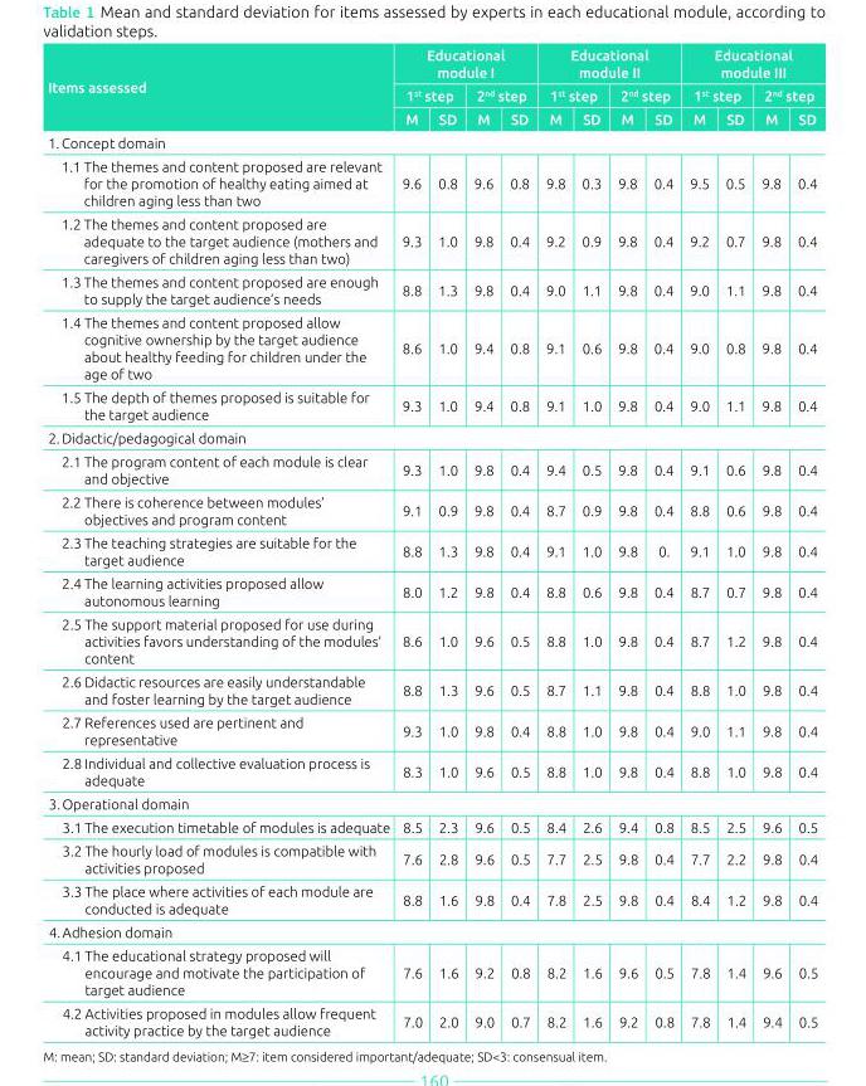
<table><thead><tr><td rowspan="3">Items assessed</td><td colspan="4">Educational module I</td><td colspan="4">Educational module II</td><td colspan="4">Educational module III</td></tr><tr><td colspan="2">1<sup>st</sup> step</td><td colspan="2">2<sup>nd</sup> step</td><td colspan="2">1<sup>st</sup> step</td><td colspan="2">2<sup>nd</sup> step</td><td colspan="2">1<sup>st</sup> step</td><td colspan="2">2<sup>nd</sup> step</td></tr><tr><td>M</td><td>SD</td><td>M</td><td>SD</td><td>M</td><td>SD</td><td>M</td><td>SD</td><td>M</td><td>SD</td><td>M</td><td>SD</td></tr></thead><tbody><tr><td colspan="13">1. Concept domain</td></tr><tr><td>1.1 The themes and content proposed are relevant for the promotion of healthy eating aimed at children aging less than two</td><td>9.6</td><td>0.8</td><td>9.6</td><td>0.8</td><td>9.8</td><td>0.3</td><td>9.8</td><td>0.4</td><td>9.5</td><td>0.5</td><td>9.8</td><td>0.4</td></tr><tr><td>1.2 The themes and content proposed are adequate to the target audience (mothers and caregivers of children aging less than two)</td><td>9.3</td><td>1.0</td><td>9.8</td><td>0.4</td><td>9.2</td><td>0.9</td><td>9.8</td><td>0.4</td><td>9.2</td><td>0.7</td><td>9.8</td><td>0.4</td></tr><tr><td>1.3 The themes and content proposed are enough to supply the target audience’s needs</td><td>8.8</td><td>1.3</td><td>9.8</td><td>0.4</td><td>9.0</td><td>1.1</td><td>9.8</td><td>0.4</td><td>9.0</td><td>1.1</td><td>9.8</td><td>0.4</td></tr><tr><td>1.4 The themes and content proposed allow cognitive ownership by the target audience about healthy feeding for children under the age of two</td><td>8.6</td><td>1.0</td><td>9.4</td><td>0.8</td><td>9.1</td><td>0.6</td><td>9.8</td><td>0.4</td><td>9.0</td><td>0.8</td><td>9.8</td><td>0.4</td></tr><tr><td>1.5 The depth of themes proposed is suitable for the target audience</td><td>9.3</td><td>1.0</td><td>9.4</td><td>0.8</td><td>9.1</td><td>1.0</td><td>9.8</td><td>0.4</td><td>9.0</td><td>1.1</td><td>9.8</td><td>0.4</td></tr><tr><td colspan="13">2. Didactic/pedagogical domain</td></tr><tr><td>2.1 The program content of each module is clear and objective</td><td>9.3</td><td>1.0</td><td>9.8</td><td>0.4</td><td>9.4</td><td>0.5</td><td>9.8</td><td>0.4</td><td>9.1</td><td>0.6</td><td>9.8</td><td>0.4</td></tr><tr><td>2.2 There is coherence between modules’ objectives and program content</td><td>9.1</td><td>0.9</td><td>9.8</td><td>0.4</td><td>8.7</td><td>0.9</td><td>9.8</td><td>0.4</td><td>8.8</td><td>0.6</td><td>9.8</td><td>0.4</td></tr><tr><td>2.3 The teaching strategies are suitable for the target audience</td><td>8.8</td><td>1.3</td><td>9.8</td><td>0.4</td><td>9.1</td><td>1.0</td><td>9.8</td><td>0.</td><td>9.1</td><td>1.0</td><td>9.8</td><td>0.4</td></tr><tr><td>2.4 The learning activities proposed allow autonomous learning</td><td>8.0</td><td>1.2</td><td>9.8</td><td>0.4</td><td>8.8</td><td>0.6</td><td>9.8</td><td>0.4</td><td>8.7</td><td>0.7</td><td>9.8</td><td>0.4</td></tr><tr><td>2.5 The support material proposed for use during activities favors understanding of the modules’ content</td><td>8.6</td><td>1.0</td><td>9.6</td><td>0.5</td><td>8.8</td><td>1.0</td><td>9.8</td><td>0.4</td><td>8.7</td><td>1.2</td><td>9.8</td><td>0.4</td></tr><tr><td>2.6 Didactic resources are easily understandable and foster learning by the target audience</td><td>8.8</td><td>1.3</td><td>9.6</td><td>0.5</td><td>8.7</td><td>1.1</td><td>9.8</td><td>0.4</td><td>8.8</td><td>1.0</td><td>9.8</td><td>0.4</td></tr><tr><td>2.7 References used are pertinent and representative</td><td>9.3</td><td>1.0</td><td>9.8</td><td>0.4</td><td>8.8</td><td>1.0</td><td>9.8</td><td>0.4</td><td>9.0</td><td>1.1</td><td>9.8</td><td>0.4</td></tr><tr><td>2.8 Individual and collective evaluation process is adequate</td><td>8.3</td><td>1.0</td><td>9.6</td><td>0.5</td><td>8.8</td><td>1.0</td><td>9.8</td><td>0.4</td><td>8.8</td><td>1.0</td><td>9.8</td><td>0.4</td></tr><tr><td colspan="13">3. Operational domain</td></tr><tr><td>3.1 The execution timetable of modules is adequate</td><td>8.5</td><td>2.3</td><td>9.6</td><td>0.5</td><td>8.4</td><td>2.6</td><td>9.4</td><td>0.8</td><td>8.5</td><td>2.5</td><td>9.6</td><td>0.5</td></tr><tr><td>3.2 The hourly load of modules is compatible with activities proposed</td><td>7.6</td><td>2.8</td><td>9.6</td><td>0.5</td><td>7.7</td><td>2.5</td><td>9.8</td><td>0.4</td><td>7.7</td><td>2.2</td><td>9.8</td><td>0.4</td></tr><tr><td>3.3 The place where activities of each module are conducted is adequate</td><td>8.8</td><td>1.6</td><td>9.8</td><td>0.4</td><td>7.8</td><td>2.5</td><td>9.8</td><td>0.4</td><td>8.4</td><td>1.2</td><td>9.8</td><td>0.4</td></tr><tr><td colspan="13">4. Adhesion domain</td></tr><tr><td>4.1 The educational strategy proposed will encourage and motivate the participation of target audience</td><td>7.6</td><td>1.6</td><td>9.2</td><td>0.8</td><td>8.2</td><td>1.6</td><td>9.6</td><td>0.5</td><td>7.8</td><td>1.4</td><td>9.6</td><td>0.5</td></tr><tr><td>4.2 Activities proposed in modules allow frequent activity practice by the target audience</td><td>7.0</td><td>2.0</td><td>9.0</td><td>0.7</td><td>8.2</td><td>1.6</td><td>9.2</td><td>0.8</td><td>7.8</td><td>1.4</td><td>9.4</td><td>0.5</td></tr></tbody></table>